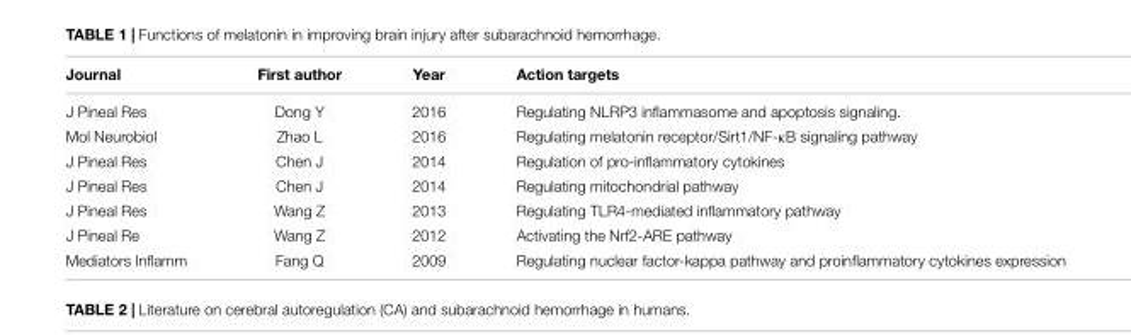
<table><thead><tr><td>Journal</td><td>First author</td><td>Year</td><td>Action targets</td></tr></thead><tbody><tr><td>J Pineal Res</td><td>Dong Y</td><td>2016</td><td>Regulating NLRP3 inflammasome and apoptosis signaling.</td></tr><tr><td>Mol Neurobiol</td><td>Zhao L</td><td>2016</td><td>Regulating melatonin receptor/Sirt1/NF-κB signaling pathway</td></tr><tr><td>J Pineal Res</td><td>Chen J</td><td>2014</td><td>Regulation of pro-inflammatory cytokines</td></tr><tr><td>J Pineal Res</td><td>Chen J</td><td>2014</td><td>Regulating mitochondrial pathway</td></tr><tr><td>J Pineal Res</td><td>Wang Z</td><td>2013</td><td>Regulating TLR4-mediated inflammatory pathway</td></tr><tr><td>J Pineal Re</td><td>Wang Z</td><td>2012</td><td>Activating the Nrf2-ARE pathway</td></tr><tr><td>Mediators Inflamm</td><td>Fang Q</td><td>2009</td><td>Regulating nuclear factor-kappa pathway and proinflammatory cytokines expression</td></tr></tbody></table>